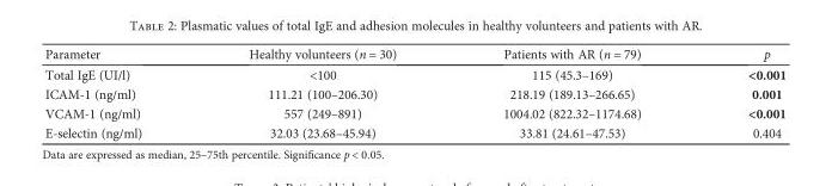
<table><thead><tr><td>Parameter</td><td>Healthy volunteers (n = 30)</td><td>Patients with AR (n = 79)</td><td>p</td></tr></thead><tbody><tr><td>Total IgE (UI/l)</td><td>&lt;100</td><td>115 (45.3–169)</td><td>&lt;0.001</td></tr><tr><td>ICAM-1 (ng/ml)</td><td>111.21 (100–206.30)</td><td>218.19 (189.13–266.65)</td><td>0.001</td></tr><tr><td>VCAM-1 (ng/ml)</td><td>557 (249–891)</td><td>1004.02 (822.32–1174.68)</td><td>&lt;0.001</td></tr><tr><td>E-selectin (ng/ml)</td><td>32.03 (23.68–45.94)</td><td>33.81 (24.61–47.53)</td><td>0.404</td></tr></tbody></table>